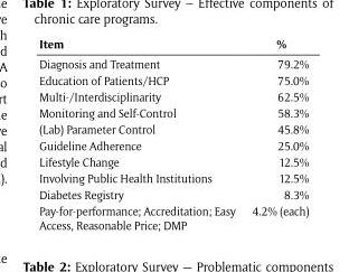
<table><thead><tr><td>Item</td><td>%</td></tr></thead><tbody><tr><td>Diagnosis and Treatment</td><td>79.2%</td></tr><tr><td>Education of Patients/HCP</td><td>75.0%</td></tr><tr><td>Multi-/Interdisciplinarity</td><td>62.5%</td></tr><tr><td>Monitoring and Self-Control</td><td>58.3%</td></tr><tr><td>(Lab) Parameter Control</td><td>45.8%</td></tr><tr><td>Guideline Adherence</td><td>25.0%</td></tr><tr><td>Lifestyle Change</td><td>12.5%</td></tr><tr><td>Involving Public Health Institutions</td><td>12.5%</td></tr><tr><td>Diabetes Registry</td><td>8.3%</td></tr><tr><td>Pay-for-performance; Accreditation; Easy Access, Reasonable Price; DMP</td><td>4.2% (each)</td></tr></tbody></table>